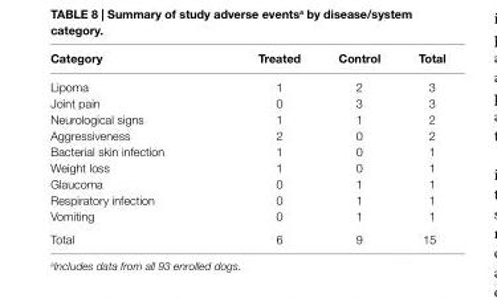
<table><thead><tr><td>category</td><td>Treated</td><td>control</td><td>Total</td></tr></thead><tbody><tr><td>Lipoma</td><td>1</td><td>2</td><td>3</td></tr><tr><td>Joint pain</td><td>0</td><td>3</td><td>3</td></tr><tr><td>Neurological signs</td><td>1</td><td>1</td><td>2</td></tr><tr><td>Aggressiveness</td><td>2</td><td>0</td><td>2</td></tr><tr><td>Bacterial skin infection</td><td>1</td><td>0</td><td>1</td></tr><tr><td>Weight loss</td><td>1</td><td>0</td><td>1</td></tr><tr><td>Glaucoma</td><td>0</td><td>1</td><td>1</td></tr><tr><td>Respiratory infection</td><td>0</td><td>1</td><td>1</td></tr><tr><td>Vomiting</td><td>0</td><td>1</td><td>1</td></tr><tr><td>Total</td><td>6</td><td>9</td><td>15</td></tr></tbody></table>